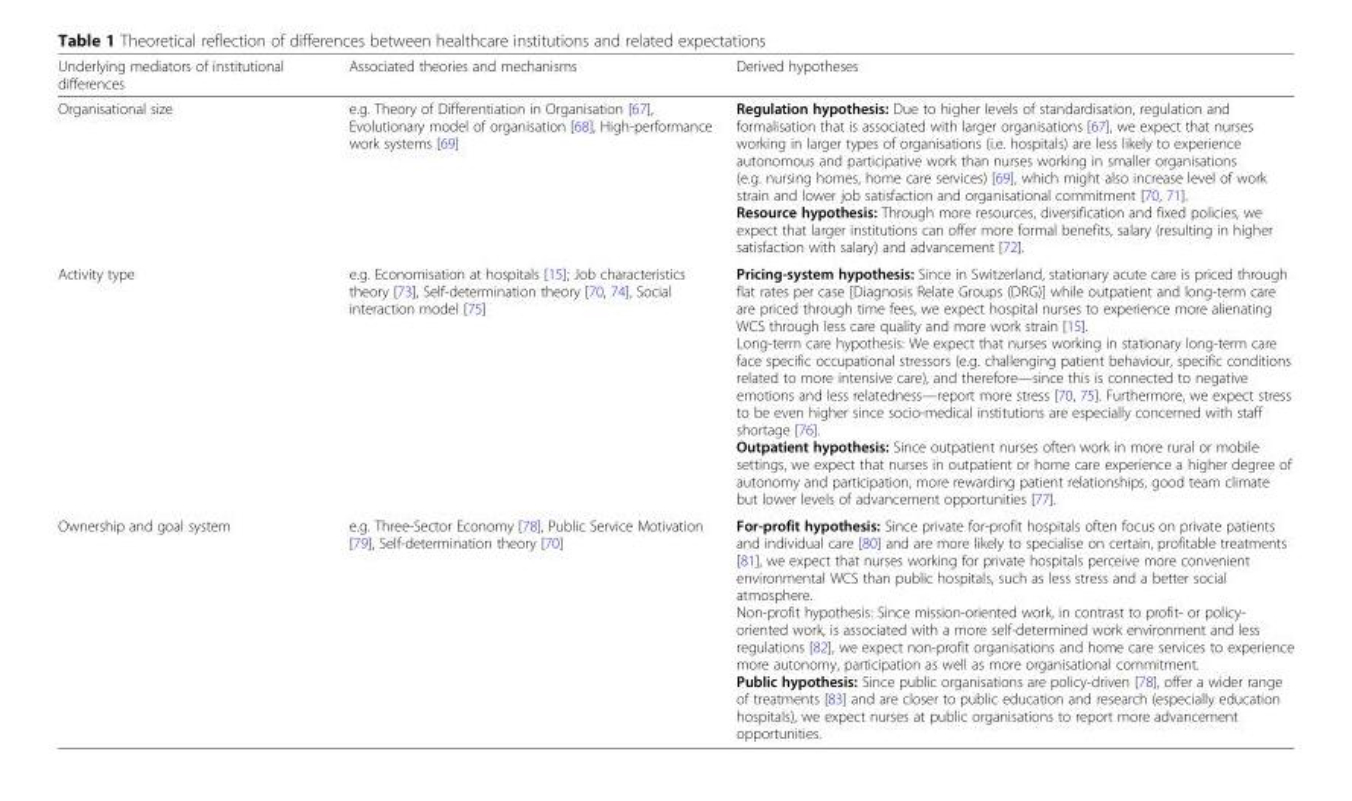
<table><thead><tr><td>Underlying mediators of institutional differences</td><td>Associated theories and mechanisms</td><td>Derived hypotheses</td></tr></thead><tbody><tr><td>Organisational size</td><td>e.g. Theory of Differentiation in Organisation [67], Evolutionary model of organisation [68], High-performance work systems [69]</td><td>Regulation hypothesis: Due to higher levels of standardisation, regulation and formalisation that is associated with larger organisations [67], we expect that nurses working in larger types of organisations (i.e. hospitals) are less likely to experience autonomous and participative work than nurses working in smaller organisations (e.g. nursing homes, home care services) [69], which might also increase level of work strain and lower job satisfaction and organisational commitment [70, 71]. Resource hypothesis: Through more resources, diversification and fixed policies, we expect that larger institutions can offer more formal benefits, salary (resulting in higher satisfaction with salary) and advancement [72].</td></tr><tr><td>Activity type</td><td>e.g. Economisation at hospitals [15]; Job characteristics theory [73], Self-determination theory [70, 74], Social interaction model [75]</td><td>Pricing-system hypothesis: Since in Switzerland, stationary acute care is priced through flat rates per case [Diagnosis Relate Groups (DRG)] while outpatient and long-term care are priced through time fees, we expect hospital nurses to experience more alienating WCS through less care quality and more work strain [15]. Long-term care hypothesis: We expect that nurses working in stationary long-term care face specific occupational stressors (e.g. challenging patient behaviour, specific conditions related to more intensive care), and therefore—since this is connected to negative emotions and less relatedness—report more stress [70, 75]. Furthermore, we expect stress to be even higher since socio-medical institutions are especially concerned with staff shortage [76]. Outpatient hypothesis: Since outpatient nurses often work in more rural or mobile settings, we expect that nurses in outpatient or home care experience a higher degree of autonomy and participation, more rewarding patient relationships, good team climate but lower levels of advancement opportunities [77].</td></tr><tr><td>Ownership and goal system</td><td>e.g. Three-Sector Economy [78], Public Service Motivation [79], Self-determination theory [70]</td><td>For-profit hypothesis: Since private for-profit hospitals often focus on private patients and individual care [80] and are more likely to specialise on certain, profitable treatments [81], we expect that nurses working for private hospitals perceive more convenient environmental WCS than public hospitals, such as less stress and a better social atmosphere. Non-profit hypothesis: Since mission-oriented work, in contrast to profit- or policy- oriented work, is associated with a more self-determined work environment and less regulations [82], we expect non-profit organisations and home care services to experience more autonomy, participation as well as more organisational commitment. Public hypothesis: Since public organisations are policy-driven [78], offer a wider range of treatments [83] and are closer to public education and research (especially education hospitals), we expect nurses at public organisations to report more advancement opportunities.</td></tr></tbody></table>